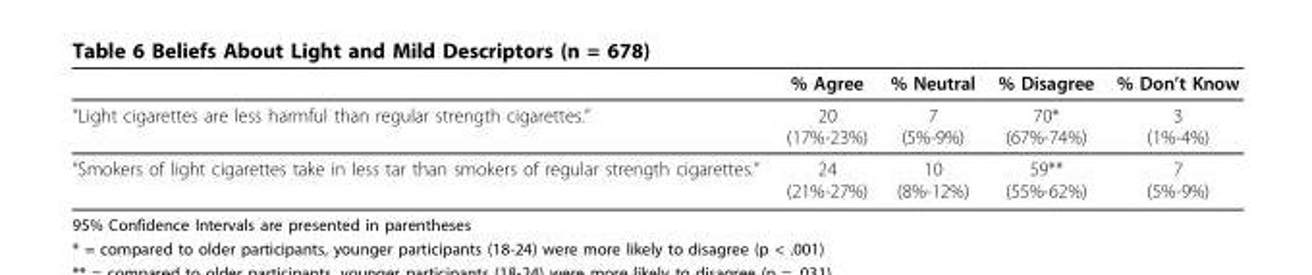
<table><thead><tr><td></td><td>% Agree</td><td>% Neutral</td><td>% Disagree</td><td>% Don’t Know</td></tr></thead><tbody><tr><td>“Light cigarettes are less harmful than regular strength cigarettes.”</td><td>20 (17%-23%)</td><td>7 (5%-9%)</td><td>70* (67%-74%)</td><td>3 (1%-4%)</td></tr><tr><td>“Smokers of light cigarettes take in less tar than smokers of regular strength cigarettes.”</td><td>24 (21%-27%)</td><td>10 (8%-12%)</td><td>59** (55%-62%)</td><td>7 (5%-9%)</td></tr></tbody></table>